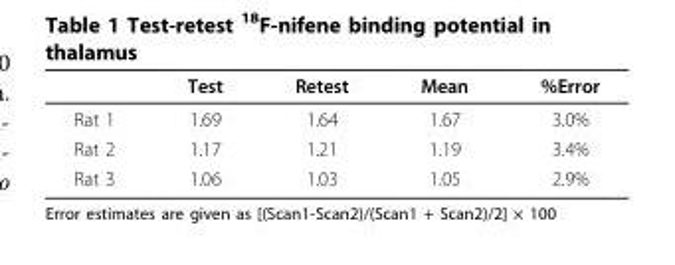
<table><thead><tr><td></td><td>Test</td><td>Retest</td><td>Mean</td><td>%Error</td></tr></thead><tbody><tr><td>Rat 1</td><td>1.69</td><td>1.64</td><td>1.67</td><td>3.0%</td></tr><tr><td>Rat 2</td><td>1.17</td><td>1.21</td><td>1.19</td><td>3.4%</td></tr><tr><td>Rat 3</td><td>1.06</td><td>1.03</td><td>1.05</td><td>2.9%</td></tr></tbody></table>